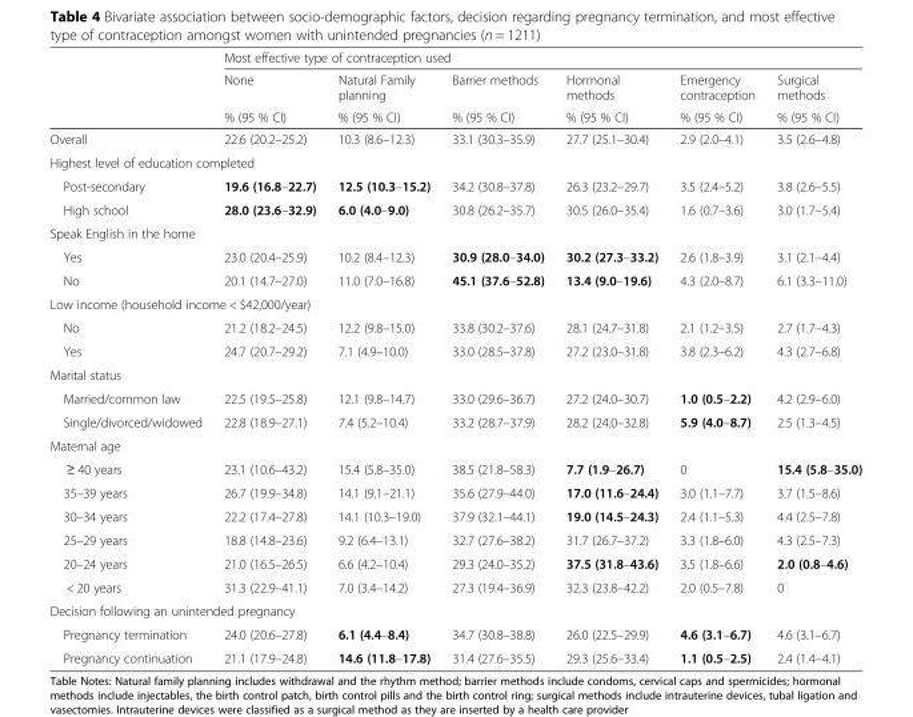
<table><thead><tr><td rowspan="3"></td><td colspan="6">Most effective type of contraception used</td></tr><tr><td rowspan="2">None % (95 % CI)</td><td rowspan="2">Natural Family planning % (95 % CI)</td><td rowspan="2">Barrier methods % (95 % CI)</td><td rowspan="2">Hormonal methods % (95 % CI)</td><td rowspan="2">Emergency contraception % (95 % CI)</td><td rowspan="2">Surgical methods % (95 % CI)</td></tr><tr></tr></thead><tbody><tr><td>Overall</td><td>22.6 (20.2–25.2)</td><td>10.3 (8.6–12.3)</td><td>33.1 (30.3–35.9)</td><td>27.7 (25.1–30.4)</td><td>2.9 (2.0–4.1)</td><td>3.5 (2.6–4.8)</td></tr><tr><td colspan="7">Highest level of education completed</td></tr><tr><td>Post-secondary</td><td>19.6 (16.8–22.7)</td><td>12.5 (10.3–15.2)</td><td>34.2 (30.8–37.8)</td><td>26.3 (23.2–29.7)</td><td>3.5 (2.4–5.2)</td><td>3.8 (2.6–5.5)</td></tr><tr><td>High school</td><td>28.0 (23.6–32.9)</td><td>6.0 (4.0–9.0)</td><td>30.8 (26.2–35.7)</td><td>30.5 (26.0–35.4)</td><td>1.6 (0.7–3.6)</td><td>3.0 (1.7–5.4)</td></tr><tr><td colspan="7">Speak English in the home</td></tr><tr><td>Yes</td><td>23.0 (20.4–25.9)</td><td>10.2 (8.4–12.3)</td><td>30.9 (28.0–34.0)</td><td>30.2 (27.3–33.2)</td><td>2.6 (1.8–3.9)</td><td>3.1 (2.1–4.4)</td></tr><tr><td>No</td><td>20.1 (14.7–27.0)</td><td>11.0 (7.0–16.8)</td><td>45.1 (37.6–52.8)</td><td>13.4 (9.0–19.6)</td><td>4.3 (2.0–8.7)</td><td>6.1 (3.3–11.0)</td></tr><tr><td colspan="7">Low income (household income &lt; $42,000/year)</td></tr><tr><td>No</td><td>21.2 (18.2–24.5)</td><td>12.2 (9.8–15.0)</td><td>33.8 (30.2–37.6)</td><td>28.1 (24.7–31.8)</td><td>2.1 (1.2–3.5)</td><td>2.7 (1.7–4.3)</td></tr><tr><td>Yes</td><td>24.7 (20.7–29.2)</td><td>7.1 (4.9–10.0)</td><td>33.0 (28.5–37.8)</td><td>27.2 (23.0–31.8)</td><td>3.8 (2.3–6.2)</td><td>4.3 (2.7–6.8)</td></tr><tr><td colspan="7">Marital status</td></tr><tr><td>Married/common law</td><td>22.5 (19.5–25.8)</td><td>12.1 (9.8–14.7)</td><td>33.0 (29.6–36.7)</td><td>27.2 (24.0–30.7)</td><td>1.0 (0.5–2.2)</td><td>4.2 (2.9–6.0)</td></tr><tr><td>Single/divorced/widowed</td><td>22.8 (18.9–27.1)</td><td>7.4 (5.2–10.4)</td><td>33.2 (28.7–37.9)</td><td>28.2 (24.0–32.8)</td><td>5.9 (4.0–8.7)</td><td>2.5 (1.3–4.5)</td></tr><tr><td colspan="7">Maternal age</td></tr><tr><td>≥ 40 years</td><td>23.1 (10.6–43.2)</td><td>15.4 (5.8–35.0)</td><td>38.5 (21.8–58.3)</td><td>7.7 (1.9–26.7)</td><td>0</td><td>15.4 (5.8–35.0)</td></tr><tr><td>35–39 years</td><td>26.7 (19.9–34.8)</td><td>14.1 (9.1–21.1)</td><td>35.6 (27.9–44.0)</td><td>17.0 (11.6–24.4)</td><td>3.0 (1.1–7.7)</td><td>3.7 (1.5–8.6)</td></tr><tr><td>30–34 years</td><td>22.2 (17.4–27.8)</td><td>14.1 (10.3–19.0)</td><td>37.9 (32.1–44.1)</td><td>19.0 (14.5–24.3)</td><td>2.4 (1.1–5.3)</td><td>4.4 (2.5–7.8)</td></tr><tr><td>25–29 years</td><td>18.8 (14.8–23.6)</td><td>9.2 (6.4–13.1)</td><td>32.7 (27.6–38.2)</td><td>31.7 (26.7–37.2)</td><td>3.3 (1.8–6.0)</td><td>4.3 (2.5–7.3)</td></tr><tr><td>20–24 years</td><td>21.0 (16.5–26.5)</td><td>6.6 (4.2–10.4)</td><td>29.3 (24.0–35.2)</td><td>37.5 (31.8–43.6)</td><td>3.5 (1.8–6.6)</td><td>2.0 (0.8–4.6)</td></tr><tr><td>&lt; 20 years</td><td>31.3 (22.9–41.1)</td><td>7.0 (3.4–14.2)</td><td>27.3 (19.4–36.9)</td><td>32.3 (23.8–42.2)</td><td>2.0 (0.5–7.8)</td><td>0</td></tr><tr><td colspan="7">Decision following an unintended pregnancy</td></tr><tr><td>Pregnancy termination</td><td>24.0 (20.6–27.8)</td><td>6.1 (4.4–8.4)</td><td>34.7 (30.8–38.8)</td><td>26.0 (22.5–29.9)</td><td>4.6 (3.1–6.7)</td><td>4.6 (3.1–6.7)</td></tr><tr><td>Pregnancy continuation</td><td>21.1 (17.9–24.8)</td><td>14.6 (11.8–17.8)</td><td>31.4 (27.6–35.5)</td><td>29.3 (25.6–33.4)</td><td>1.1 (0.5–2.5)</td><td>2.4 (1.4–4.1)</td></tr></tbody></table>